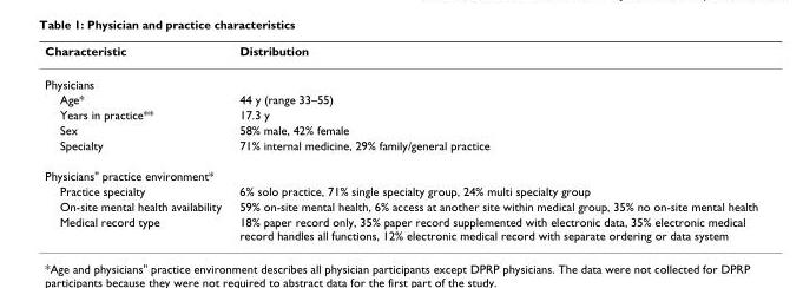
<table><thead><tr><td>Characteristic</td><td>Distribution</td></tr></thead><tbody><tr><td colspan="2">Physicians</td></tr><tr><td>Age*</td><td>44 y (range 33–55)</td></tr><tr><td>Years in practice**</td><td>17.3 y</td></tr><tr><td>Sex</td><td>58% male, 42% female</td></tr><tr><td>Specialty</td><td>71% internal medicine, 29% family/general practice</td></tr><tr><td colspan="2">Physicians&quot; practice environment*</td></tr><tr><td>Practice specialty</td><td>6% solo practice, 71% single specialty group, 24% multi specialty group</td></tr><tr><td>On-site mental health availability</td><td>59% on-site mental health, 6% access at another site within medical group, 35% no on-site mental health</td></tr><tr><td>Medical record type</td><td>18% paper record only, 35% paper record supplemented with electronic data, 35% electronic medical record handles all functions, 12% electronic medical record with separate ordering or data system</td></tr></tbody></table>